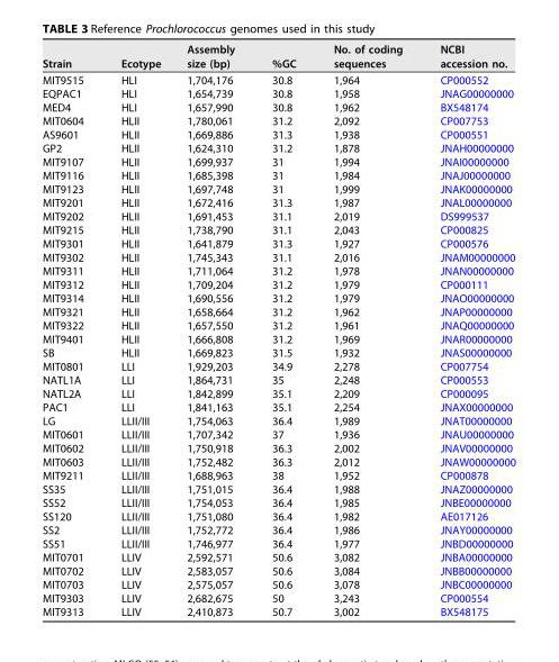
<table><thead><tr><td>Strain</td><td>Ecotype</td><td>Assembly size (bp)</td><td>%GC</td><td>No. of coding sequences</td><td>NCBI accession no.</td></tr></thead><tbody><tr><td>MIT9515</td><td>HLI</td><td>1,704,176</td><td>30.8</td><td>1,964</td><td>CP000552</td></tr><tr><td>EQPAC1</td><td>HLI</td><td>1,654,739</td><td>30.8</td><td>1,958</td><td>JNAG00000000</td></tr><tr><td>MED4</td><td>HLI</td><td>1,657,990</td><td>30.8</td><td>1,962</td><td>BX548174</td></tr><tr><td>MIT0604</td><td>HLII</td><td>1,780,061</td><td>31.2</td><td>2,092</td><td>CP007753</td></tr><tr><td>AS9601</td><td>HLII</td><td>1,669,886</td><td>31.3</td><td>1,938</td><td>CP000551</td></tr><tr><td>GP2</td><td>HLII</td><td>1,624,310</td><td>31.2</td><td>1,878</td><td>JNAH00000000</td></tr><tr><td>MIT9107</td><td>HLII</td><td>1,699,937</td><td>31</td><td>1,994</td><td>JNAI00000000</td></tr><tr><td>MIT9116</td><td>HLII</td><td>1,685,398</td><td>31</td><td>1,984</td><td>JNAJ00000000</td></tr><tr><td>MIT9123</td><td>HLII</td><td>1,697,748</td><td>31</td><td>1,999</td><td>JNAK00000000</td></tr><tr><td>MIT9201</td><td>HLII</td><td>1,672,416</td><td>31.3</td><td>1,987</td><td>JNAL00000000</td></tr><tr><td>MIT9202</td><td>HLII</td><td>1,691,453</td><td>31.1</td><td>2,019</td><td>DS999537</td></tr><tr><td>MIT9215</td><td>HLII</td><td>1,738,790</td><td>31.1</td><td>2,043</td><td>CP000825</td></tr><tr><td>MIT9301</td><td>HLII</td><td>1,641,879</td><td>31.3</td><td>1,927</td><td>CP000576</td></tr><tr><td>MIT9302</td><td>HLII</td><td>1,745,343</td><td>31.1</td><td>2,016</td><td>JNAM00000000</td></tr><tr><td>MIT9311</td><td>HLII</td><td>1,711,064</td><td>31.2</td><td>1,978</td><td>JNAN00000000</td></tr><tr><td>MIT9312</td><td>HLII</td><td>1,709,204</td><td>31.2</td><td>1,979</td><td>CP000111</td></tr><tr><td>MIT9314</td><td>HLII</td><td>1,690,556</td><td>31.2</td><td>1,979</td><td>JNAO00000000</td></tr><tr><td>MIT9321</td><td>HLII</td><td>1,658,664</td><td>31.2</td><td>1,962</td><td>JNAP00000000</td></tr><tr><td>MIT9322</td><td>HLII</td><td>1,657,550</td><td>31.2</td><td>1,961</td><td>JNAQ00000000</td></tr><tr><td>MIT9401</td><td>HLII</td><td>1,666,808</td><td>31.2</td><td>1,969</td><td>JNAR00000000</td></tr><tr><td>SB</td><td>HLII</td><td>1,669,823</td><td>31.5</td><td>1,932</td><td>JNAS00000000</td></tr><tr><td>MIT0801</td><td>LLI</td><td>1,929,203</td><td>34.9</td><td>2,278</td><td>CP007754</td></tr><tr><td>NATL1A</td><td>LLI</td><td>1,864,731</td><td>35</td><td>2,248</td><td>CP000553</td></tr><tr><td>NATL2A</td><td>LLI</td><td>1,842,899</td><td>35.1</td><td>2,209</td><td>CP000095</td></tr><tr><td>PAC1</td><td>LLI</td><td>1,841,163</td><td>35.1</td><td>2,254</td><td>JNAX00000000</td></tr><tr><td>LG</td><td>LLII/III</td><td>1,754,063</td><td>36.4</td><td>1,989</td><td>JNAT00000000</td></tr><tr><td>MIT0601</td><td>LLII/III</td><td>1,707,342</td><td>37</td><td>1,936</td><td>JNAU00000000</td></tr><tr><td>MIT0602</td><td>LLII/III</td><td>1,750,918</td><td>36.3</td><td>2,002</td><td>JNAV00000000</td></tr><tr><td>MIT0603</td><td>LLII/III</td><td>1,752,482</td><td>36.3</td><td>2,012</td><td>JNAW00000000</td></tr><tr><td>MIT9211</td><td>LLII/III</td><td>1,688,963</td><td>38</td><td>1,952</td><td>CP000878</td></tr><tr><td>SS35</td><td>LLII/III</td><td>1,751,015</td><td>36.4</td><td>1,988</td><td>JNAZ00000000</td></tr><tr><td>SS52</td><td>LLII/III</td><td>1,754,053</td><td>36.4</td><td>1,985</td><td>JNBE00000000</td></tr><tr><td>SS120</td><td>LLII/III</td><td>1,751,080</td><td>36.4</td><td>1,982</td><td>AE017126</td></tr><tr><td>SS2</td><td>LLII/III</td><td>1,752,772</td><td>36.4</td><td>1,986</td><td>JNAY00000000</td></tr><tr><td>SS51</td><td>LLII/III</td><td>1,746,977</td><td>36.4</td><td>1,977</td><td>JNBD00000000</td></tr><tr><td>MIT0701</td><td>LLIV</td><td>2,592,571</td><td>50.6</td><td>3,082</td><td>JNBA00000000</td></tr><tr><td>MIT0702</td><td>LLIV</td><td>2,583,057</td><td>50.6</td><td>3,084</td><td>JNBB00000000</td></tr><tr><td>MIT0703</td><td>LLIV</td><td>2,575,057</td><td>50.6</td><td>3,078</td><td>JNBC00000000</td></tr><tr><td>MIT9303</td><td>LLIV</td><td>2,682,675</td><td>50</td><td>3,243</td><td>CP000554</td></tr><tr><td>MIT9313</td><td>LLIV</td><td>2,410,873</td><td>50.7</td><td>3,002</td><td>BX548175</td></tr></tbody></table>